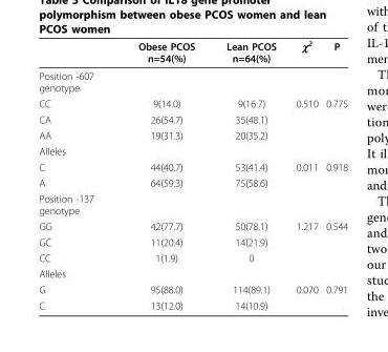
<table><thead><tr><td></td><td>Obese PCOS n=54(%)</td><td>Lean PCOS n=64(%)</td><td>χ<sup>2</sup></td><td>P</td></tr></thead><tbody><tr><td colspan="5">Position -607 genotype</td></tr><tr><td>CC</td><td>9(14.0)</td><td>9(16.7)</td><td>0.510</td><td>0.775</td></tr><tr><td>CA</td><td>26(54.7)</td><td>35(48.1)</td><td></td><td></td></tr><tr><td>AA</td><td>19(31.3)</td><td>20(35.2)</td><td></td><td></td></tr><tr><td colspan="5">Alleles</td></tr><tr><td>C</td><td>44(40.7)</td><td>53(41.4)</td><td>0.011</td><td>0.918</td></tr><tr><td>A</td><td>64(59.3)</td><td>75(58.6)</td><td></td><td></td></tr><tr><td colspan="5">Position -137 genotype</td></tr><tr><td>GG</td><td>42(77.7)</td><td>50(78.1)</td><td>1.217</td><td>0.544</td></tr><tr><td>GC</td><td>11(20.4)</td><td>14(21.9)</td><td></td><td></td></tr><tr><td>CC</td><td>1(1.9)</td><td>0</td><td></td><td></td></tr><tr><td colspan="5">Alleles</td></tr><tr><td>G</td><td>95(88.0)</td><td>114(89.1)</td><td>0.070</td><td>0.791</td></tr><tr><td>C</td><td>13(12.0)</td><td>14(10.9)</td><td></td><td></td></tr></tbody></table>